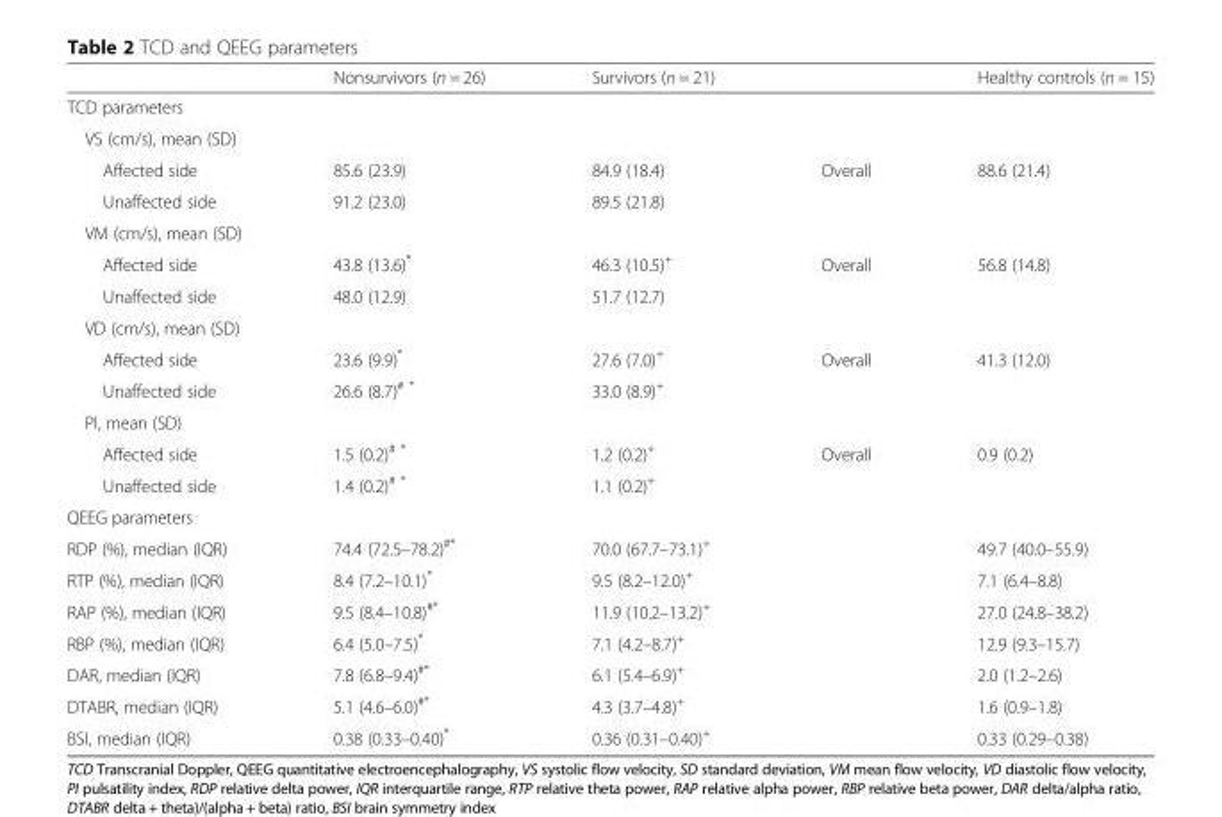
<table><thead><tr><td></td><td>Nonsurvivors (n = 26)</td><td>Survivors (n = 21)</td><td></td><td>Healthy controls (n = 15)</td></tr></thead><tbody><tr><td colspan="5">TCD parameters</td></tr><tr><td colspan="5">VS (cm/s), mean (SD)</td></tr><tr><td>Affected side</td><td>85.6 (23.9)</td><td>84.9 (18.4)</td><td>Overall</td><td rowspan="2">88.6 (21.4)</td></tr><tr><td>Unaffected side</td><td>91.2 (23.0)</td><td>89.5 (21.8)</td><td></td></tr><tr><td colspan="5">VM (cm/s), mean (SD)</td></tr><tr><td>Affected side</td><td>43.8 (13.6)*</td><td>46.3 (10.5)<sup>+</sup></td><td>Overall</td><td rowspan="2">56.8 (14.8)</td></tr><tr><td>Unaffected side</td><td>48.0 (12.9)</td><td>51.7 (12.7)</td><td></td></tr><tr><td colspan="5">VD (cm/s), mean (SD)</td></tr><tr><td>Affected side</td><td>23.6 (9.9)*</td><td>27.6 (7.0)<sup>+</sup></td><td>Overall</td><td rowspan="2">41.3 (12.0)</td></tr><tr><td>Unaffected side</td><td>26.6 (8.7)<sup># *</sup></td><td>33.0 (8.9)<sup>+</sup></td><td></td></tr><tr><td colspan="5">PI, mean (SD)</td></tr><tr><td>Affected side</td><td>1.5 (0.2)<sup># *</sup></td><td>1.2 (0.2)<sup>+</sup></td><td>Overall</td><td rowspan="2">0.9 (0.2)</td></tr><tr><td>Unaffected side</td><td>1.4 (0.2)<sup># *</sup></td><td>1.1 (0.2)<sup>+</sup></td><td></td></tr><tr><td colspan="5">QEEG parameters</td></tr><tr><td>RDP (%), median (IQR)</td><td>74.4 (72.5–78.2)<sup>#*</sup></td><td>70.0 (67.7–73.1)<sup>+</sup></td><td></td><td>49.7 (40.0–55.9)</td></tr><tr><td>RTP (%), median (IQR)</td><td>8.4 (7.2–10.1)*</td><td>9.5 (8.2–12.0)<sup>+</sup></td><td></td><td>7.1 (6.4–8.8)</td></tr><tr><td>RAP (%), median (IQR)</td><td>9.5 (8.4–10.8)<sup>#*</sup></td><td>11.9 (10.2–13.2)<sup>+</sup></td><td></td><td>27.0 (24.8–38.2)</td></tr><tr><td>RBP (%), median (IQR)</td><td>6.4 (5.0–7.5)*</td><td>7.1 (4.2–8.7)<sup>+</sup></td><td></td><td>12.9 (9.3–15.7)</td></tr><tr><td>DAR, median (IQR)</td><td>7.8 (6.8–9.4)<sup>#*</sup></td><td>6.1 (5.4–6.9)<sup>+</sup></td><td></td><td>2.0 (1.2–2.6)</td></tr><tr><td>DTABR, median (IQR)</td><td>5.1 (4.6–6.0)<sup>#*</sup></td><td>4.3 (3.7–4.8)<sup>+</sup></td><td></td><td>1.6 (0.9–1.8)</td></tr><tr><td>BSI, median (IQR)</td><td>0.38 (0.33–0.40)*</td><td>0.36 (0.31–0.40)<sup>+</sup></td><td></td><td>0.33 (0.29–0.38)</td></tr></tbody></table>